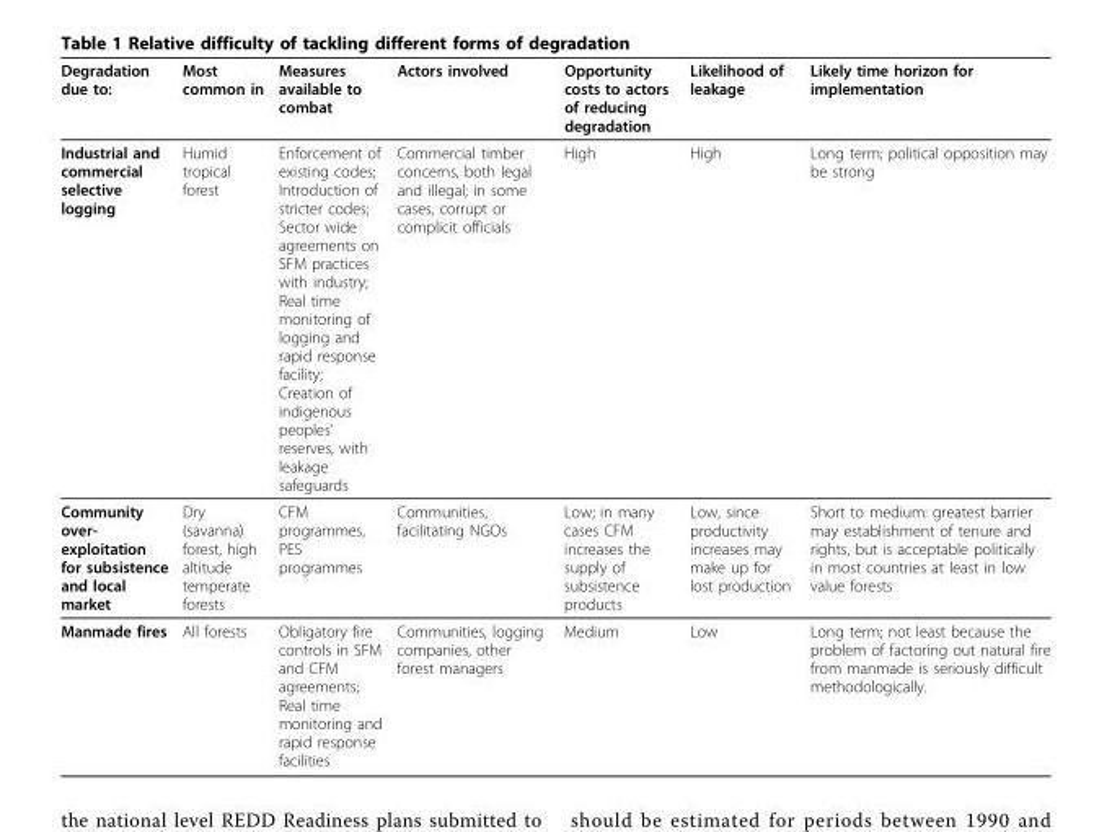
<table><thead><tr><td>Degradation due to:</td><td>Most common in</td><td>Measures available to combat</td><td>Actors involved</td><td>Opportunity costs to actors of reducing degradation</td><td>Likelihood of leakage</td><td>Likely time horizon for implementation</td></tr></thead><tbody><tr><td>Industrial and commercial selective logging</td><td>Humid tropical forest</td><td>Enforcement of existing codes; Introduction of stricter codes; Sector wide agreements on SFM practices with industry; Real time monitoring of logging and rapid response facility; Creation of indigenous peoples’ reserves, with leakage safeguards</td><td>Commercial timber concerns, both legal and illegal; in some cases, corrupt or complicit officials</td><td>High</td><td>High</td><td>Long term; political opposition may be strong</td></tr><tr><td>Community over- exploitation for subsistence and local market</td><td>Dry (savanna) forest, high altitude temperate forests</td><td>CFM programmes, PES programmes</td><td>Communities, facilitating NGOs</td><td>Low; in many cases CFM increases the supply of subsistence products</td><td>Low, since productivity increases may make up for lost production</td><td>Short to medium: greatest barrier may establishment of tenure and rights, but is acceptable politically in most countries at least in low value forests</td></tr><tr><td>Manmade fires</td><td>All forests</td><td>Obligatory fire controls in SFM and CFM agreements; Real time monitoring and rapid response facilities</td><td>Communities, logging companies, other forest managers</td><td>Medium</td><td>Low</td><td>Long term; not least because the problem of factoring out natural fire from manmade is seriously difficult methodologically.</td></tr></tbody></table>